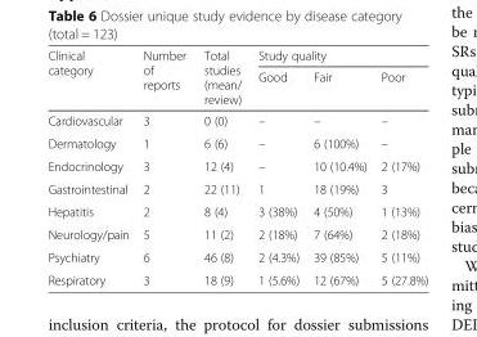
<table><thead><tr><td rowspan="2">Clinical category</td><td rowspan="2">Number of reports</td><td rowspan="2">Total studies (mean/ review)</td><td colspan="3">Study quality</td></tr><tr><td>Good</td><td>Fair</td><td>Poor</td></tr></thead><tbody><tr><td>Cardiovascular</td><td>3</td><td>0 (0)</td><td>–</td><td>–</td><td>–</td></tr><tr><td>Dermatology</td><td>1</td><td>6 (6)</td><td>–</td><td>6 (100%)</td><td>–</td></tr><tr><td>Endocrinology</td><td>3</td><td>12 (4)</td><td>–</td><td>10 (10.4%)</td><td>2 (17%)</td></tr><tr><td>Gastrointestinal</td><td>2</td><td>22 (11)</td><td>1</td><td>18 (19%)</td><td>3</td></tr><tr><td>Hepatitis</td><td>2</td><td>8 (4)</td><td>3 (38%)</td><td>4 (50%)</td><td>1 (13%)</td></tr><tr><td>Neurology/pain</td><td>5</td><td>11 (2)</td><td>2 (18%)</td><td>7 (64%)</td><td>2 (18%)</td></tr><tr><td>Psychiatry</td><td>6</td><td>46 (8)</td><td>2 (4.3%)</td><td>39 (85%)</td><td>5 (11%)</td></tr><tr><td>Respiratory</td><td>3</td><td>18 (9)</td><td>1 (5.6%)</td><td>12 (67%)</td><td>5 (27.8%)</td></tr></tbody></table>